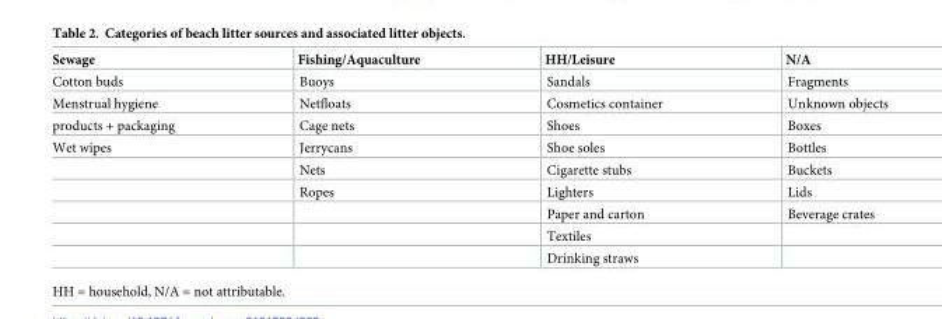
<table><thead><tr><td>Sewage</td><td>Fishing/Aquaculture</td><td>HH/Leisure</td><td>N/A</td></tr></thead><tbody><tr><td>Cotton buds</td><td>Buoys</td><td>Sandals</td><td>Fragments</td></tr><tr><td>Menstrual hygiene</td><td>Netfloats</td><td>Cosmetics container</td><td>Unknown objects</td></tr><tr><td>products + packaging</td><td>Cage nets</td><td>Shoes</td><td>Boxes</td></tr><tr><td rowspan="6">Wet wipes</td><td>Jerrycans</td><td>Shoe soles</td><td>Bottles</td></tr><tr><td>Nets</td><td>Cigarette stubs</td><td>Buckets</td></tr><tr><td>Ropes</td><td>Lighters</td><td>Lids</td></tr><tr><td></td><td>Paper and carton</td><td>Beverage crates</td></tr><tr><td></td><td>Textiles</td><td></td></tr><tr><td></td><td>Drinking straws</td><td></td></tr></tbody></table>